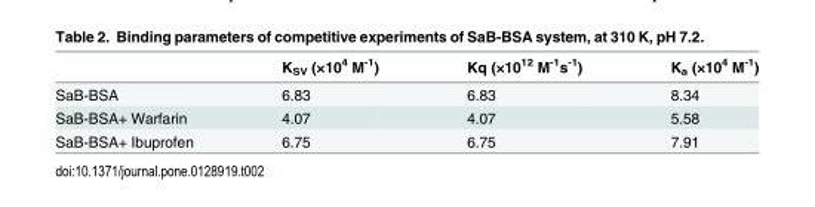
<table><thead><tr><td></td><td>K<sub>SV</sub> (×10<sup>4</sup> M<sup>-1</sup>)</td><td>Kq (×10<sup>12</sup> M<sup>-1</sup>s<sup>-1</sup>)</td><td>K<sub>a</sub> (×10<sup>4</sup> M<sup>-1</sup>)</td></tr></thead><tbody><tr><td>SaB-BSA</td><td>6.83</td><td>6.83</td><td>8.34</td></tr><tr><td>SaB-BSA+ Warfarin</td><td>4.07</td><td>4.07</td><td>5.58</td></tr><tr><td>SaB-BSA+ Ibuprofen</td><td>6.75</td><td>6.75</td><td>7.91</td></tr></tbody></table>